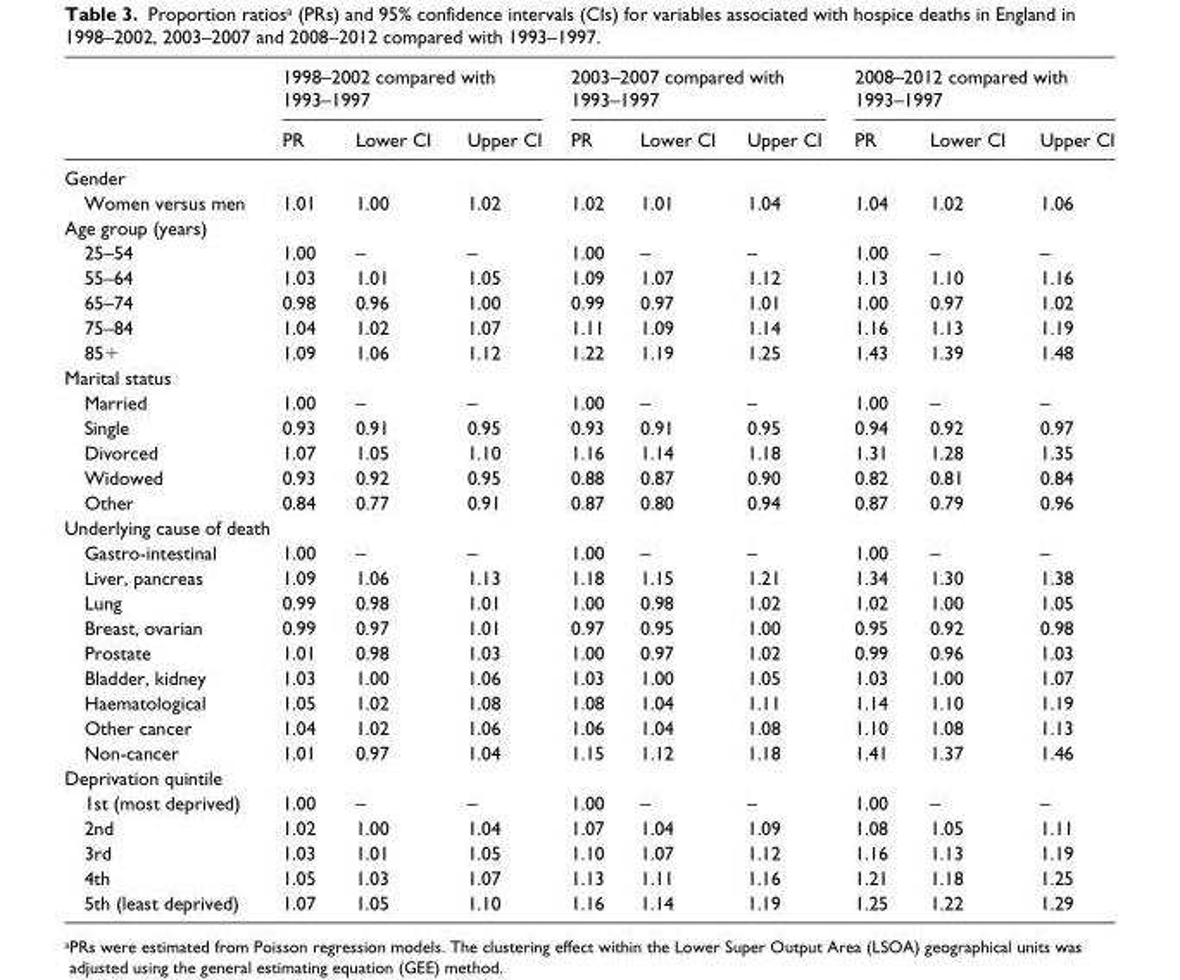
<table><thead><tr><td rowspan="2"></td><td colspan="3">1998–2002 compared with 1993–1997</td><td colspan="3">2003–2007 compared with 1993–1997</td><td colspan="3">2008–2012 compared with 1993–1997</td></tr><tr><td>PR</td><td>Lower CI</td><td>Upper CI</td><td>PR</td><td>Lower CI</td><td>Upper CI</td><td>PR</td><td>Lower CI</td><td>Upper CI</td></tr></thead><tbody><tr><td colspan="10">Gender</td></tr><tr><td>Women versus men</td><td>1.01</td><td>1.00</td><td>1.02</td><td>1.02</td><td>1.01</td><td>1.04</td><td>1.04</td><td>1.02</td><td>1.06</td></tr><tr><td colspan="10">Age group (years)</td></tr><tr><td>25–54</td><td>1.00</td><td>–</td><td>–</td><td>1.00</td><td>–</td><td>–</td><td>1.00</td><td>–</td><td>–</td></tr><tr><td>55–64</td><td>1.03</td><td>1.01</td><td>1.05</td><td>1.09</td><td>1.07</td><td>1.12</td><td>1.13</td><td>1.10</td><td>1.16</td></tr><tr><td>65–74</td><td>0.98</td><td>0.96</td><td>1.00</td><td>0.99</td><td>0.97</td><td>1.01</td><td>1.00</td><td>0.97</td><td>1.02</td></tr><tr><td>75–84</td><td>1.04</td><td>1.02</td><td>1.07</td><td>1.11</td><td>1.09</td><td>1.14</td><td>1.16</td><td>1.13</td><td>1.19</td></tr><tr><td>85+</td><td>1.09</td><td>1.06</td><td>1.12</td><td>1.22</td><td>1.19</td><td>1.25</td><td>1.43</td><td>1.39</td><td>1.48</td></tr><tr><td colspan="10">Marital status</td></tr><tr><td>Married</td><td>1.00</td><td>–</td><td>–</td><td>1.00</td><td>–</td><td>–</td><td>1.00</td><td>–</td><td>–</td></tr><tr><td>Single</td><td>0.93</td><td>0.91</td><td>0.95</td><td>0.93</td><td>0.91</td><td>0.95</td><td>0.94</td><td>0.92</td><td>0.97</td></tr><tr><td>Divorced</td><td>1.07</td><td>1.05</td><td>1.10</td><td>1.16</td><td>1.14</td><td>1.18</td><td>1.31</td><td>1.28</td><td>1.35</td></tr><tr><td>Widowed</td><td>0.93</td><td>0.92</td><td>0.95</td><td>0.88</td><td>0.87</td><td>0.90</td><td>0.82</td><td>0.81</td><td>0.84</td></tr><tr><td>Other</td><td>0.84</td><td>0.77</td><td>0.91</td><td>0.87</td><td>0.80</td><td>0.94</td><td>0.87</td><td>0.79</td><td>0.96</td></tr><tr><td colspan="10">Underlying cause of death</td></tr><tr><td>Gastro-intestinal</td><td>1.00</td><td>–</td><td>–</td><td>1.00</td><td>–</td><td>–</td><td>1.00</td><td>–</td><td>–</td></tr><tr><td>Liver, pancreas</td><td>1.09</td><td>1.06</td><td>1.13</td><td>1.18</td><td>1.15</td><td>1.21</td><td>1.34</td><td>1.30</td><td>1.38</td></tr><tr><td>Lung</td><td>0.99</td><td>0.98</td><td>1.01</td><td>1.00</td><td>0.98</td><td>1.02</td><td>1.02</td><td>1.00</td><td>1.05</td></tr><tr><td>Breast, ovarian</td><td>0.99</td><td>0.97</td><td>1.01</td><td>0.97</td><td>0.95</td><td>1.00</td><td>0.95</td><td>0.92</td><td>0.98</td></tr><tr><td>Prostate</td><td>1.01</td><td>0.98</td><td>1.03</td><td>1.00</td><td>0.97</td><td>1.02</td><td>0.99</td><td>0.96</td><td>1.03</td></tr><tr><td>Bladder, kidney</td><td>1.03</td><td>1.00</td><td>1.06</td><td>1.03</td><td>1.00</td><td>1.05</td><td>1.03</td><td>1.00</td><td>1.07</td></tr><tr><td>Haematological</td><td>1.05</td><td>1.02</td><td>1.08</td><td>1.08</td><td>1.04</td><td>1.11</td><td>1.14</td><td>1.10</td><td>1.19</td></tr><tr><td>Other cancer</td><td>1.04</td><td>1.02</td><td>1.06</td><td>1.06</td><td>1.04</td><td>1.08</td><td>1.10</td><td>1.08</td><td>1.13</td></tr><tr><td>Non-cancer</td><td>1.01</td><td>0.97</td><td>1.04</td><td>1.15</td><td>1.12</td><td>1.18</td><td>1.41</td><td>1.37</td><td>1.46</td></tr><tr><td colspan="10">Deprivation quintile</td></tr><tr><td>1st (most deprived)</td><td>1.00</td><td>–</td><td>–</td><td>1.00</td><td>–</td><td>–</td><td>1.00</td><td>–</td><td>–</td></tr><tr><td>2nd</td><td>1.02</td><td>1.00</td><td>1.04</td><td>1.07</td><td>1.04</td><td>1.09</td><td>1.08</td><td>1.05</td><td>1.11</td></tr><tr><td>3rd</td><td>1.03</td><td>1.01</td><td>1.05</td><td>1.10</td><td>1.07</td><td>1.12</td><td>1.16</td><td>1.13</td><td>1.19</td></tr><tr><td>4th</td><td>1.05</td><td>1.03</td><td>1.07</td><td>1.13</td><td>1.11</td><td>1.16</td><td>1.21</td><td>1.18</td><td>1.25</td></tr><tr><td>5th (least deprived)</td><td>1.07</td><td>1.05</td><td>1.10</td><td>1.16</td><td>1.14</td><td>1.19</td><td>1.25</td><td>1.22</td><td>1.29</td></tr></tbody></table>